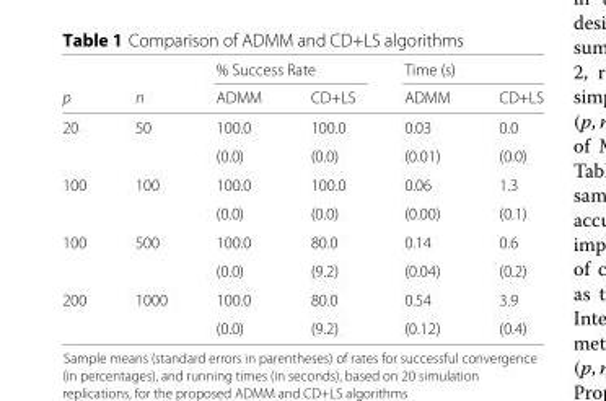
<table><thead><tr><td rowspan="2">p</td><td rowspan="2">n</td><td colspan="2">% Success Rate</td><td colspan="2">Time (s)</td></tr><tr><td>ADMM</td><td>CD+LS</td><td>ADMM</td><td>CD+LS</td></tr></thead><tbody><tr><td rowspan="2">20</td><td>50</td><td>100.0</td><td>100.0</td><td>0.03</td><td>0.0</td></tr><tr><td></td><td>(0.0)</td><td>(0.0)</td><td>(0.01)</td><td>(0.0)</td></tr><tr><td rowspan="2">100</td><td>100</td><td>100.0</td><td>100.0</td><td>0.06</td><td>1.3</td></tr><tr><td></td><td>(0.0)</td><td>(0.0)</td><td>(0.00)</td><td>(0.1)</td></tr><tr><td rowspan="2">100</td><td>500</td><td>100.0</td><td>80.0</td><td>0.14</td><td>0.6</td></tr><tr><td></td><td>(0.0)</td><td>(9.2)</td><td>(0.04)</td><td>(0.2)</td></tr><tr><td rowspan="2">200</td><td>1000</td><td>100.0</td><td>80.0</td><td>0.54</td><td>3.9</td></tr><tr><td></td><td>(0.0)</td><td>(9.2)</td><td>(0.12)</td><td>(0.4)</td></tr></tbody></table>